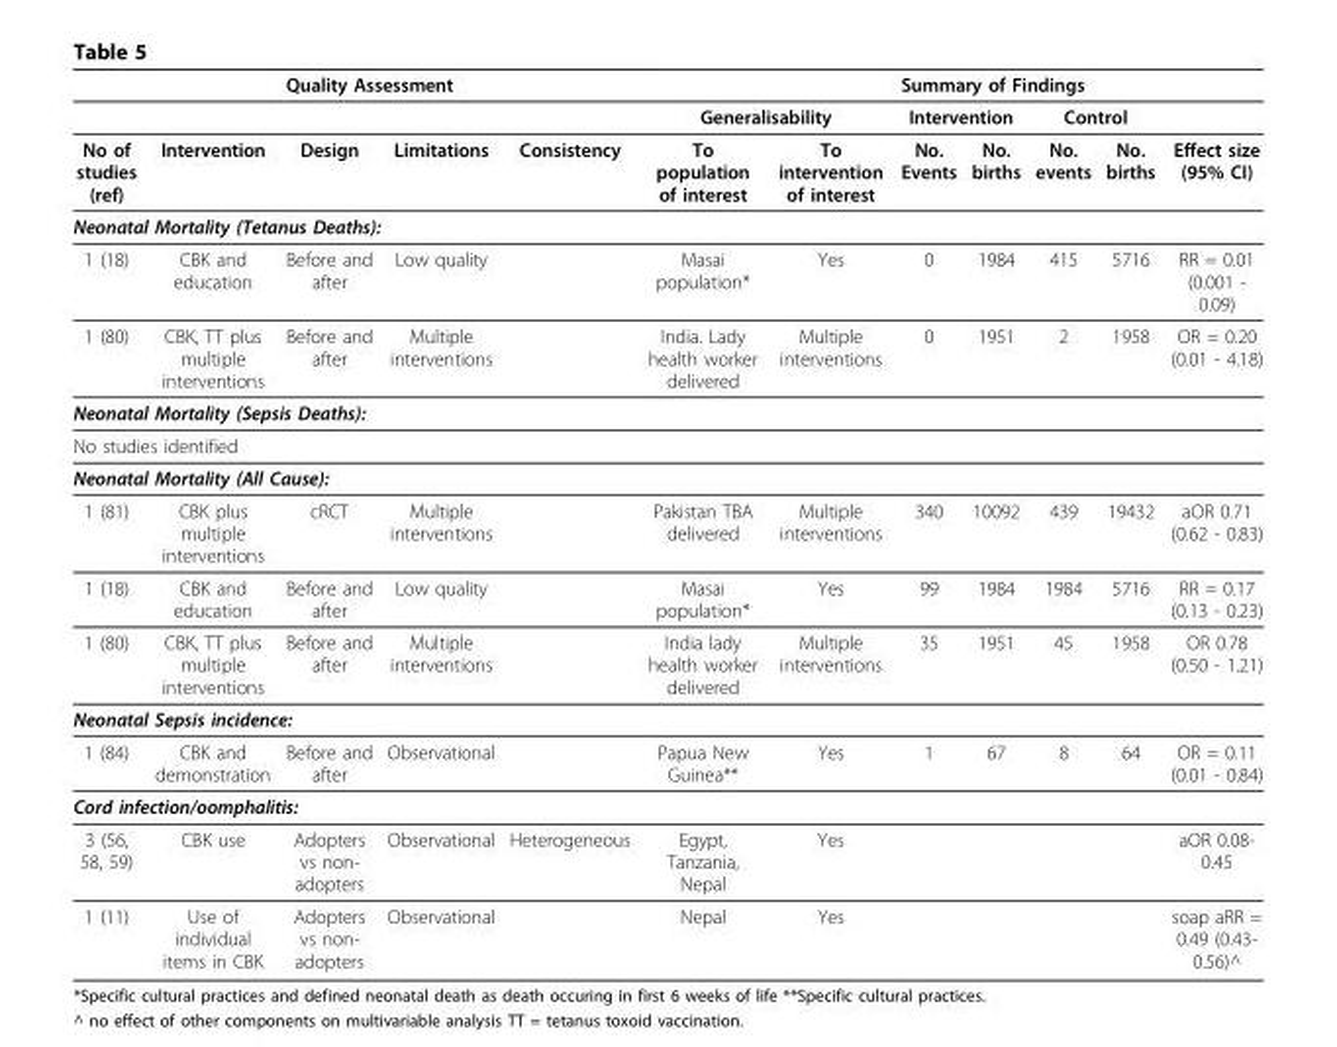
<table><thead><tr><td rowspan="3">No of studies (ref)</td><td rowspan="3">Intervention</td><td colspan="5">Quality Assessment</td><td colspan="5">Summary of Findings</td></tr><tr><td rowspan="2">Design</td><td rowspan="2">Limitations</td><td rowspan="2">Consistency</td><td colspan="2">Generalisability</td><td colspan="2">Intervention</td><td colspan="2">Control</td><td rowspan="2">Effect size (95% CI)</td></tr><tr><td>To population of interest</td><td>To intervention of interest</td><td>No. Events</td><td>No. births</td><td>No. events</td><td>No. births</td></tr></thead><tbody><tr><td colspan="12">Neonatal Mortality (Tetanus Deaths):</td></tr><tr><td>1 (18)</td><td>CBK and education</td><td>Before and after</td><td>Low quality</td><td></td><td>Masai population*</td><td>Yes</td><td>0</td><td>1984</td><td>415</td><td>5716</td><td>RR = 0.01 (0.001 - 0.09)</td></tr><tr><td>1 (80)</td><td>CBK, TT plus multiple interventions</td><td>Before and after</td><td>Multiple interventions</td><td></td><td>India. Lady health worker delivered</td><td>Multiple interventions</td><td>0</td><td>1951</td><td>2</td><td>1958</td><td>OR = 0.20 (0.01 - 4.18)</td></tr><tr><td colspan="12">Neonatal Mortality (Sepsis Deaths):</td></tr><tr><td colspan="12">No studies identified</td></tr><tr><td colspan="12">Neonatal Mortality (All Cause):</td></tr><tr><td>1 (81)</td><td>CBK plus multiple interventions</td><td>cRCT</td><td>Multiple interventions</td><td></td><td>Pakistan TBA delivered</td><td>Multiple interventions</td><td>340</td><td>10092</td><td>439</td><td>19432</td><td>aOR 0.71 (0.62 - 0.83)</td></tr><tr><td>1 (18)</td><td>CBK and education</td><td>Before and after</td><td>Low quality</td><td></td><td>Masai population*</td><td>Yes</td><td>99</td><td>1984</td><td>1984</td><td>5716</td><td>RR = 0.17 (0.13 - 0.23)</td></tr><tr><td>1 (80)</td><td>CBK, TT plus multiple interventions</td><td>Before and after</td><td>Multiple interventions</td><td></td><td>India lady health worker delivered</td><td>Multiple interventions</td><td>35</td><td>1951</td><td>45</td><td>1958</td><td>OR 0.78 (0.50 - 1.21)</td></tr><tr><td colspan="12">Neonatal Sepsis incidence:</td></tr><tr><td>1 (84)</td><td>CBK and demonstration</td><td>Before and after</td><td>Observational</td><td></td><td>Papua New Guinea**</td><td>Yes</td><td>1</td><td>67</td><td>8</td><td>64</td><td>OR = 0.11 (0.01 - 0.84)</td></tr><tr><td colspan="12">Cord infection/oomphalitis:</td></tr><tr><td>3 (56, 58, 59)</td><td>CBK use</td><td>Adopters vs non- adopters</td><td>Observational</td><td>Heterogeneous</td><td>Egypt, Tanzania, Nepal</td><td>Yes</td><td></td><td></td><td></td><td></td><td>aOR 0.08- 0.45</td></tr><tr><td>1 (11)</td><td>Use of individual items in CBK</td><td>Adopters vs non- adopters</td><td>Observational</td><td></td><td>Nepal</td><td>Yes</td><td></td><td></td><td></td><td></td><td>soap aRR = 0.49 (0.43- 0.56)^</td></tr></tbody></table>